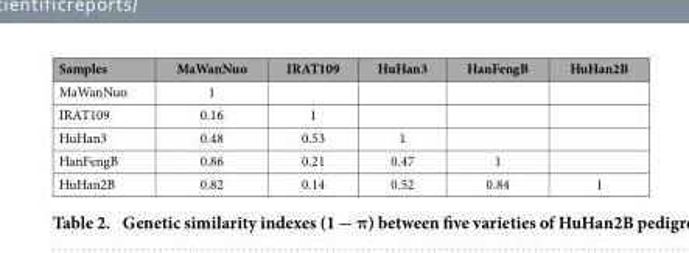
<table><thead><tr><td>Samples</td><td>MaWanNuo</td><td>IRAT109</td><td>HuHan3</td><td>HanFengB</td><td>HuHan2B</td></tr></thead><tbody><tr><td>MaWanNuo</td><td>1</td><td></td><td></td><td></td><td></td></tr><tr><td>IRAT109</td><td>0.16</td><td>1</td><td></td><td></td><td></td></tr><tr><td>HuHan3</td><td>0.48</td><td>0.53</td><td>1</td><td></td><td></td></tr><tr><td>HanFengB</td><td>0.86</td><td>0.21</td><td>0.47</td><td>1</td><td></td></tr><tr><td>HuHan2B</td><td>0.82</td><td>0.14</td><td>0.52</td><td>0.84</td><td>1</td></tr></tbody></table>